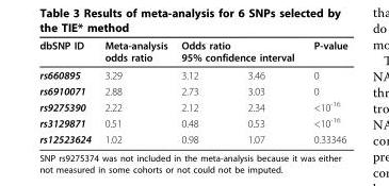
<table><thead><tr><td rowspan="2">dbSNP ID rs660895</td><td rowspan="2">Meta-analysis odds ratio 3.29</td><td colspan="2">Odds ratio 95% confidence interval</td><td rowspan="2">P-value 0</td></tr><tr><td>3.12</td><td>3.46</td></tr></thead><tbody><tr><td>rs6910071</td><td>2.88</td><td>2.73</td><td>3.03</td><td>0</td></tr><tr><td>rs9275390</td><td>2.22</td><td>2.12</td><td>2.34</td><td>&lt;10<sup>-16</sup></td></tr><tr><td>rs3129871</td><td>0.51</td><td>0.48</td><td>0.53</td><td>&lt;10<sup>-16</sup></td></tr><tr><td>rs12523624</td><td>1.02</td><td>0.98</td><td>1.07</td><td>0.33346</td></tr></tbody></table>